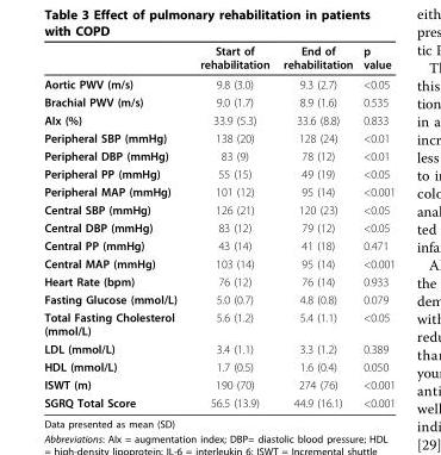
<table><thead><tr><td></td><td>Start of rehabilitation</td><td>End of rehabilitation</td><td>p value</td></tr></thead><tbody><tr><td>Aortic PWV (m/s)</td><td>9.8 (3.0)</td><td>9.3 (2.7)</td><td>&lt;0.05</td></tr><tr><td>Brachial PWV (m/s)</td><td>9.0 (1.7)</td><td>8.9 (1.6)</td><td>0.535</td></tr><tr><td>AIx (%)</td><td>33.9 (5.3)</td><td>33.6 (8.8)</td><td>0.833</td></tr><tr><td>Peripheral SBP (mmHg)</td><td>138 (20)</td><td>128 (24)</td><td>&lt;0.01</td></tr><tr><td>Peripheral DBP (mmHg)</td><td>83 (9)</td><td>78 (12)</td><td>&lt;0.01</td></tr><tr><td>Peripheral PP (mmHg)</td><td>55 (15)</td><td>49 (19)</td><td>&lt;0.05</td></tr><tr><td>Peripheral MAP (mmHg)</td><td>101 (12)</td><td>95 (14)</td><td>&lt;0.001</td></tr><tr><td>Central SBP (mmHg)</td><td>126 (21)</td><td>120 (23)</td><td>&lt;0.05</td></tr><tr><td>Central DBP (mmHg)</td><td>83 (12)</td><td>79 (12)</td><td>&lt;0.05</td></tr><tr><td>Central PP (mmHg)</td><td>43 (14)</td><td>41 (18)</td><td>0.471</td></tr><tr><td>Central MAP (mmHg)</td><td>103 (14)</td><td>95 (14)</td><td>&lt;0.001</td></tr><tr><td>Heart Rate (bpm)</td><td>76 (12)</td><td>76 (14)</td><td>0.933</td></tr><tr><td>Fasting Glucose (mmol/L)</td><td>5.0 (0.7)</td><td>4.8 (0.8)</td><td>0.079</td></tr><tr><td>Total Fasting Cholesterol (mmol/L)</td><td>5.6 (1.2)</td><td>5.4 (1.1)</td><td>&lt;0.05</td></tr><tr><td>LDL (mmol/L)</td><td>3.4 (1.1)</td><td>3.3 (1.2)</td><td>0.389</td></tr><tr><td>HDL (mmol/L)</td><td>1.7 (0.5)</td><td>1.6 (0.4)</td><td>0.050</td></tr><tr><td>ISWT (m)</td><td>190 (70)</td><td>274 (76)</td><td>&lt;0.001</td></tr><tr><td>SGRQ Total Score</td><td>56.5 (13.9)</td><td>44.9 (16.1)</td><td>&lt;0.001</td></tr></tbody></table>